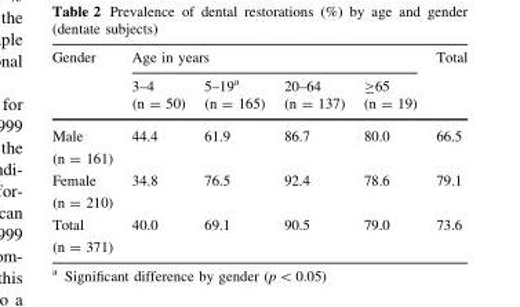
<table><thead><tr><td rowspan="2">Gender</td><td colspan="4">Age in years</td><td rowspan="2">Total</td></tr><tr><td>3–4 (n = 50)</td><td>5–19<sup>a</sup> (n = 165)</td><td>20–64 (n = 137)</td><td>≥65 (n = 19)</td></tr></thead><tbody><tr><td>Male (n = 161)</td><td>44.4</td><td>61.9</td><td>86.7</td><td>80.0</td><td>66.5</td></tr><tr><td>Female (n = 210)</td><td>34.8</td><td>76.5</td><td>92.4</td><td>78.6</td><td>79.1</td></tr><tr><td>Total (n = 371)</td><td>40.0</td><td>69.1</td><td>90.5</td><td>79.0</td><td>73.6</td></tr></tbody></table>